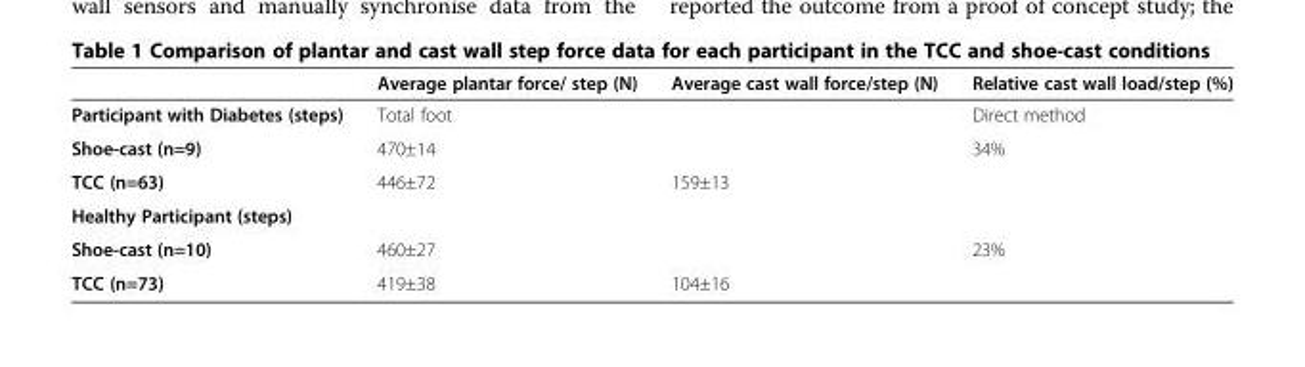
<table><thead><tr><td></td><td>Average plantar force/ step (N)</td><td>Average cast wall force/step (N)</td><td>Relative cast wall load/step (%)</td></tr></thead><tbody><tr><td>Participant with Diabetes (steps)</td><td>Total foot</td><td></td><td>Direct method</td></tr><tr><td>Shoe-cast (n=9)</td><td>470±14</td><td></td><td>34%</td></tr><tr><td>TCC (n=63)</td><td>446±72</td><td>159±13</td><td></td></tr><tr><td colspan="4">Healthy Participant (steps)</td></tr><tr><td>Shoe-cast (n=10)</td><td>460±27</td><td></td><td>23%</td></tr><tr><td>TCC (n=73)</td><td>419±38</td><td>104±16</td><td></td></tr></tbody></table>